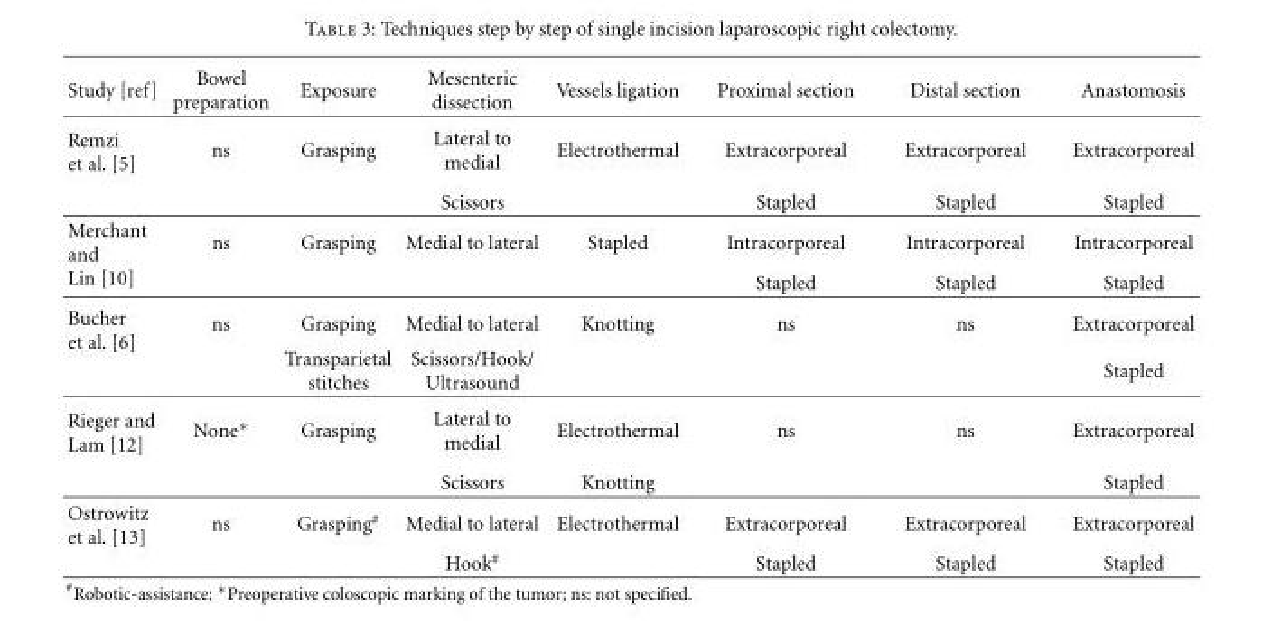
<table><thead><tr><td>Study [ref]</td><td>Bowel preparation</td><td>Exposure</td><td>Mesenteric dissection</td><td>Vessels ligation</td><td>Proximal section</td><td>Distal section</td><td>Anastomosis</td></tr></thead><tbody><tr><td rowspan="2">Remzi et al. [5]</td><td>ns</td><td>Grasping</td><td>Lateral to medial</td><td>Electrothermal</td><td>Extracorporeal</td><td>Extracorporeal</td><td>Extracorporeal</td></tr><tr><td></td><td></td><td>Scissors</td><td></td><td>Stapled</td><td>Stapled</td><td>Stapled</td></tr><tr><td rowspan="2">Merchant and Lin [10]</td><td>ns</td><td>Grasping</td><td>Medial to lateral</td><td>Stapled</td><td>Intracorporeal</td><td>Intracorporeal</td><td>Intracorporeal</td></tr><tr><td></td><td></td><td></td><td></td><td>Stapled</td><td>Stapled</td><td>Stapled</td></tr><tr><td rowspan="2">Bucher et al. [6]</td><td>ns</td><td>Grasping</td><td>Medial to lateral</td><td>Knotting</td><td>ns</td><td>ns</td><td>Extracorporeal</td></tr><tr><td></td><td>Transparietal stitches</td><td>Scissors/Hook/ Ultrasound</td><td></td><td></td><td></td><td>Stapled</td></tr><tr><td rowspan="2">Rieger and Lam [12]</td><td>None∗</td><td>Grasping</td><td>Lateral to medial</td><td>Electrothermal</td><td>ns</td><td>ns</td><td>Extracorporeal</td></tr><tr><td></td><td></td><td>Scissors</td><td>Knotting</td><td></td><td></td><td>Stapled</td></tr><tr><td rowspan="2">Ostrowitz et al. [13]</td><td>ns</td><td>Grasping<sup>#</sup></td><td>Medial to lateral</td><td>Electrothermal</td><td>Extracorporeal</td><td>Extracorporeal</td><td>Extracorporeal</td></tr><tr><td></td><td></td><td>Hook<sup>#</sup></td><td></td><td>Stapled</td><td>Stapled</td><td>Stapled</td></tr></tbody></table>